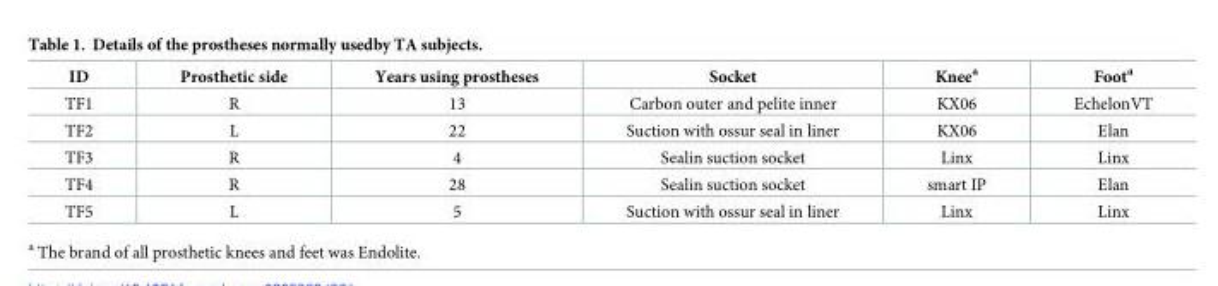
<table><thead><tr><td>ID</td><td>Prosthetic side</td><td>Years using prostheses</td><td>Socket</td><td>Knee<sup>a</sup></td><td>Foot<sup>a</sup></td></tr></thead><tbody><tr><td>TF1</td><td>R</td><td>13</td><td>Carbon outer and pelite inner</td><td>KX06</td><td>EchelonVT</td></tr><tr><td>TF2</td><td>L</td><td>22</td><td>Suction with ossur seal in liner</td><td>KX06</td><td>Elan</td></tr><tr><td>TF3</td><td>R</td><td>4</td><td>Sealin suction socket</td><td>Linx</td><td>Linx</td></tr><tr><td>TF4</td><td>R</td><td>28</td><td>Sealin suction socket</td><td>smart IP</td><td>Elan</td></tr><tr><td>TF5</td><td>L</td><td>5</td><td>Suction with ossur seal in liner</td><td>Linx</td><td>Linx</td></tr></tbody></table>